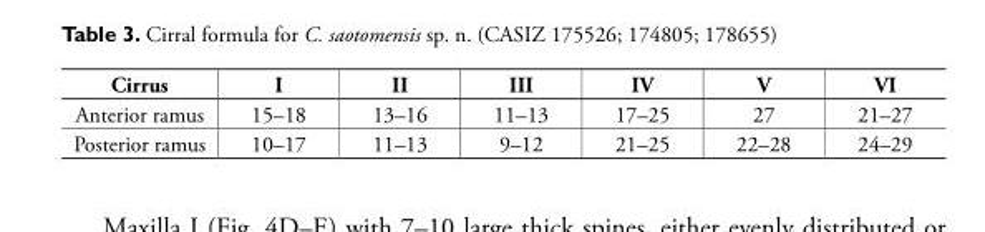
<table><thead><tr><td>Cirrus</td><td>I</td><td>II</td><td>III</td><td>IV</td><td>V</td><td>VI</td></tr></thead><tbody><tr><td>Anterior ramus</td><td>15–18</td><td>13–16</td><td>11–13</td><td>17–25</td><td>27</td><td>21–27</td></tr><tr><td>Posterior ramus</td><td>10–17</td><td>11–13</td><td>9–12</td><td>21–25</td><td>22–28</td><td>24–29</td></tr></tbody></table>